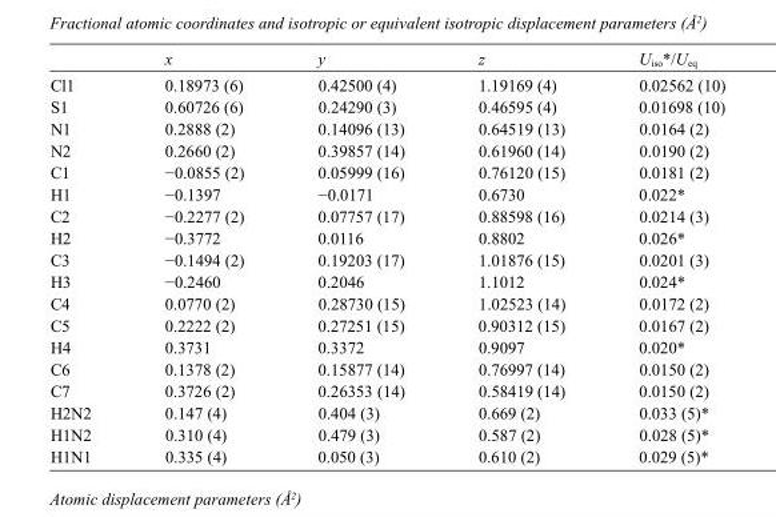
<table><thead><tr><td></td><td>x</td><td>y</td><td>z</td><td>U<sub>iso</sub>*/U<sub>eq</sub></td></tr></thead><tbody><tr><td>Cl1</td><td>0.18973 (6)</td><td>0.42500 (4)</td><td>1.19169 (4)</td><td>0.02562 (10)</td></tr><tr><td>S1</td><td>0.60726 (6)</td><td>0.24290 (3)</td><td>0.46595 (4)</td><td>0.01698 (10)</td></tr><tr><td>N1</td><td>0.2888 (2)</td><td>0.14096 (13)</td><td>0.64519 (13)</td><td>0.0164 (2)</td></tr><tr><td>N2</td><td>0.2660 (2)</td><td>0.39857 (14)</td><td>0.61960 (14)</td><td>0.0190 (2)</td></tr><tr><td>C1</td><td>−0.0855 (2)</td><td>0.05999 (16)</td><td>0.76120 (15)</td><td>0.0181 (2)</td></tr><tr><td>H1</td><td>−0.1397</td><td>−0.0171</td><td>0.6730</td><td>0.022*</td></tr><tr><td>C2</td><td>−0.2277 (2)</td><td>0.07757 (17)</td><td>0.88598 (16)</td><td>0.0214 (3)</td></tr><tr><td>H2</td><td>−0.3772</td><td>0.0116</td><td>0.8802</td><td>0.026*</td></tr><tr><td>C3</td><td>−0.1494 (2)</td><td>0.19203 (17)</td><td>1.01876 (15)</td><td>0.0201 (3)</td></tr><tr><td>H3</td><td>−0.2460</td><td>0.2046</td><td>1.1012</td><td>0.024*</td></tr><tr><td>C4</td><td>0.0770 (2)</td><td>0.28730 (15)</td><td>1.02523 (14)</td><td>0.0172 (2)</td></tr><tr><td>C5</td><td>0.2222 (2)</td><td>0.27251 (15)</td><td>0.90312 (15)</td><td>0.0167 (2)</td></tr><tr><td>H4</td><td>0.3731</td><td>0.3372</td><td>0.9097</td><td>0.020*</td></tr><tr><td>C6</td><td>0.1378 (2)</td><td>0.15877 (14)</td><td>0.76997 (14)</td><td>0.0150 (2)</td></tr><tr><td>C7</td><td>0.3726 (2)</td><td>0.26353 (14)</td><td>0.58419 (14)</td><td>0.0150 (2)</td></tr><tr><td>H2N2</td><td>0.147 (4)</td><td>0.404 (3)</td><td>0.669 (2)</td><td>0.033 (5)*</td></tr><tr><td>H1N2</td><td>0.310 (4)</td><td>0.479 (3)</td><td>0.587 (2)</td><td>0.028 (5)*</td></tr><tr><td>H1N1</td><td>0.335 (4)</td><td>0.050 (3)</td><td>0.610 (2)</td><td>0.029 (5)*</td></tr></tbody></table>